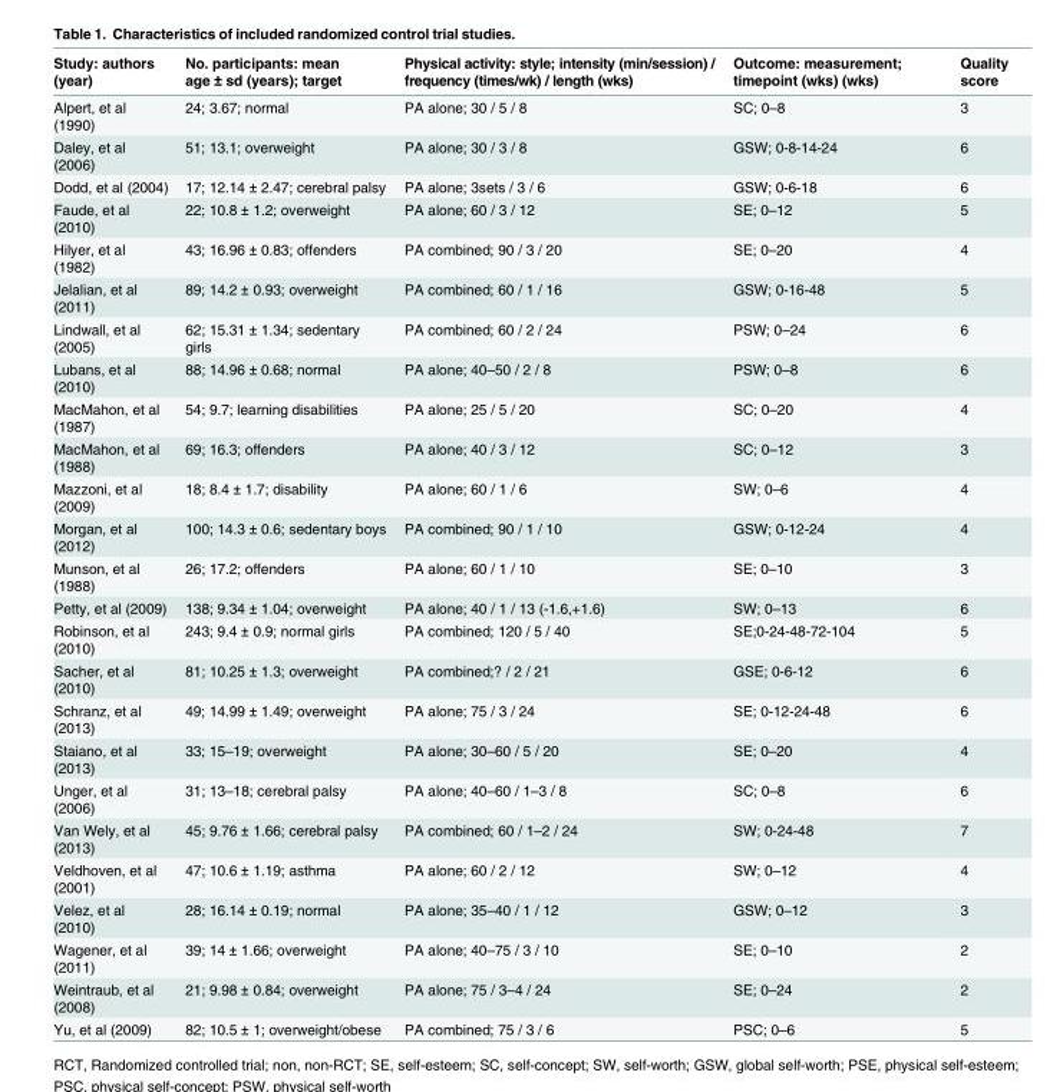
<table><thead><tr><td>Study: authors (year)</td><td>No. participants: mean age ± sd (years); target</td><td>Physical activity: style; intensity (min/session) / frequency (times/wk) / length (wks)</td><td>Outcome: measurement; timepoint (wks) (wks)</td><td>Quality score</td></tr></thead><tbody><tr><td>Alpert, et al (1990)</td><td>24; 3.67; normal</td><td>PA alone; 30 / 5 / 8</td><td>SC; 0–8</td><td>3</td></tr><tr><td>Daley, et al (2006)</td><td>51; 13.1; overweight</td><td>PA alone; 30 / 3 / 8</td><td>GSW; 0-8-14-24</td><td>6</td></tr><tr><td>Dodd, et al (2004)</td><td>17; 12.14 ± 2.47; cerebral palsy</td><td>PA alone; 3sets / 3 / 6</td><td>GSW; 0-6-18</td><td>6</td></tr><tr><td>Faude, et al (2010)</td><td>22; 10.8 ± 1.2; overweight</td><td>PA alone; 60 / 3 / 12</td><td>SE; 0–12</td><td>5</td></tr><tr><td>Hilyer, et al (1982)</td><td>43; 16.96 ± 0.83; offenders</td><td>PA combined; 90 / 3 / 20</td><td>SE; 0–20</td><td>4</td></tr><tr><td>Jelalian, et al (2011)</td><td>89; 14.2 ± 0.93; overweight</td><td>PA combined; 60 / 1 / 16</td><td>GSW; 0-16-48</td><td>5</td></tr><tr><td>Lindwall, et al (2005)</td><td>62; 15.31 ± 1.34; sedentary girls</td><td>PA combined; 60 / 2 / 24</td><td>PSW; 0–24</td><td>6</td></tr><tr><td>Lubans, et al (2010)</td><td>88; 14.96 ± 0.68; normal</td><td>PA alone; 40–50 / 2 / 8</td><td>PSW; 0–8</td><td>6</td></tr><tr><td>MacMahon, et al (1987)</td><td>54; 9.7; learning disabilities</td><td>PA alone; 25 / 5 / 20</td><td>SC; 0–20</td><td>4</td></tr><tr><td>MacMahon, et al (1988)</td><td>69; 16.3; offenders</td><td>PA alone; 40 / 3 / 12</td><td>SC; 0–12</td><td>3</td></tr><tr><td>Mazzoni, et al (2009)</td><td>18; 8.4 ± 1.7; disability</td><td>PA alone; 60 / 1 / 6</td><td>SW; 0–6</td><td>4</td></tr><tr><td>Morgan, et al (2012)</td><td>100; 14.3 ± 0.6; sedentary boys</td><td>PA combined; 90 / 1 / 10</td><td>GSW; 0-12-24</td><td>4</td></tr><tr><td>Munson, et al (1988)</td><td>26; 17.2; offenders</td><td>PA alone; 60 / 1 / 10</td><td>SE; 0–10</td><td>3</td></tr><tr><td>Petty, et al (2009)</td><td>138; 9.34 ± 1.04; overweight</td><td>PA alone; 40 / 1 / 13 (-1.6,+1.6)</td><td>SW; 0–13</td><td>6</td></tr><tr><td>Robinson, et al (2010)</td><td>243; 9.4 ± 0.9; normal girls</td><td>PA combined; 120 / 5 / 40</td><td>SE;0-24-48-72-104</td><td>5</td></tr><tr><td>Sacher, et al (2010)</td><td>81; 10.25 ± 1.3; overweight</td><td>PA combined;? / 2 / 21</td><td>GSE; 0-6-12</td><td>6</td></tr><tr><td>Schranz, et al (2013)</td><td>49; 14.99 ± 1.49; overweight</td><td>PA alone; 75 / 3 / 24</td><td>SE; 0-12-24-48</td><td>6</td></tr><tr><td>Staiano, et al (2013)</td><td>33; 15–19; overweight</td><td>PA alone; 30–60 / 5 / 20</td><td>SE; 0–20</td><td>4</td></tr><tr><td>Unger, et al (2006)</td><td>31; 13–18; cerebral palsy</td><td>PA alone; 40–60 / 1–3 / 8</td><td>SC; 0–8</td><td>6</td></tr><tr><td>Van Wely, et al (2013)</td><td>45; 9.76 ± 1.66; cerebral palsy</td><td>PA combined; 60 / 1–2 / 24</td><td>SW; 0-24-48</td><td>7</td></tr><tr><td>Veldhoven, et al (2001)</td><td>47; 10.6 ± 1.19; asthma</td><td>PA alone; 60 / 2 / 12</td><td>SW; 0–12</td><td>4</td></tr><tr><td>Velez, et al (2010)</td><td>28; 16.14 ± 0.19; normal</td><td>PA alone; 35–40 / 1 / 12</td><td>GSW; 0–12</td><td>3</td></tr><tr><td>Wagener, et al (2011)</td><td>39; 14 ± 1.66; overweight</td><td>PA alone; 40–75 / 3 / 10</td><td>SE; 0–10</td><td>2</td></tr><tr><td>Weintraub, et al (2008)</td><td>21; 9.98 ± 0.84; overweight</td><td>PA alone; 75 / 3–4 / 24</td><td>SE; 0–24</td><td>2</td></tr><tr><td>Yu, et al (2009)</td><td>82; 10.5 ± 1; overweight/obese</td><td>PA combined; 75 / 3 / 6</td><td>PSC; 0–6</td><td>5</td></tr></tbody></table>